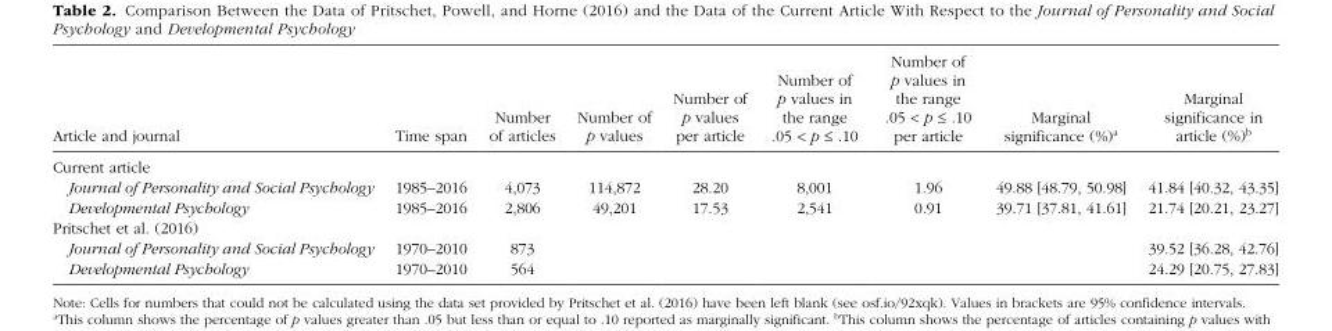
<table><thead><tr><td>Article and journal</td><td>Time span</td><td>Number of articles</td><td>Number of p values</td><td>Number of p values per article</td><td>Number of p values in the range .05 &lt; p ≤ .10</td><td>Number of p values in the range .05 &lt; p ≤ .10 per article</td><td>Marginal significance (%)<sup>a</sup></td><td>Marginal significance in article (%)<sup>b</sup></td></tr></thead><tbody><tr><td colspan="9">Current article</td></tr><tr><td>Journal of Personality and Social Psychology</td><td>1985–2016</td><td>4,073</td><td>114,872</td><td>28.20</td><td>8,001</td><td>1.96</td><td>49.88 [48.79, 50.98]</td><td>41.84 [40.32, 43.35]</td></tr><tr><td>Developmental Psychology</td><td>1985–2016</td><td>2,806</td><td>49,201</td><td>17.53</td><td>2,541</td><td>0.91</td><td>39.71 [37.81, 41.61]</td><td>21.74 [20.21, 23.27]</td></tr><tr><td colspan="9">Pritschet et al. (2016)</td></tr><tr><td>Journal of Personality and Social Psychology</td><td>1970–2010</td><td>873</td><td></td><td></td><td></td><td></td><td></td><td>39.52 [36.28, 42.76]</td></tr><tr><td>Developmental Psychology</td><td>1970–2010</td><td>564</td><td></td><td></td><td></td><td></td><td></td><td>24.29 [20.75, 27.83]</td></tr></tbody></table>